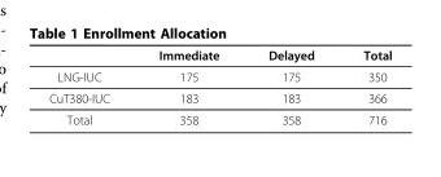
<table><thead><tr><td></td><td>Immediate</td><td>Delayed</td><td>Total</td></tr></thead><tbody><tr><td>LNG-IUC</td><td>175</td><td>175</td><td>350</td></tr><tr><td>CuT380-IUC</td><td>183</td><td>183</td><td>366</td></tr><tr><td>Total</td><td>358</td><td>358</td><td>716</td></tr></tbody></table>